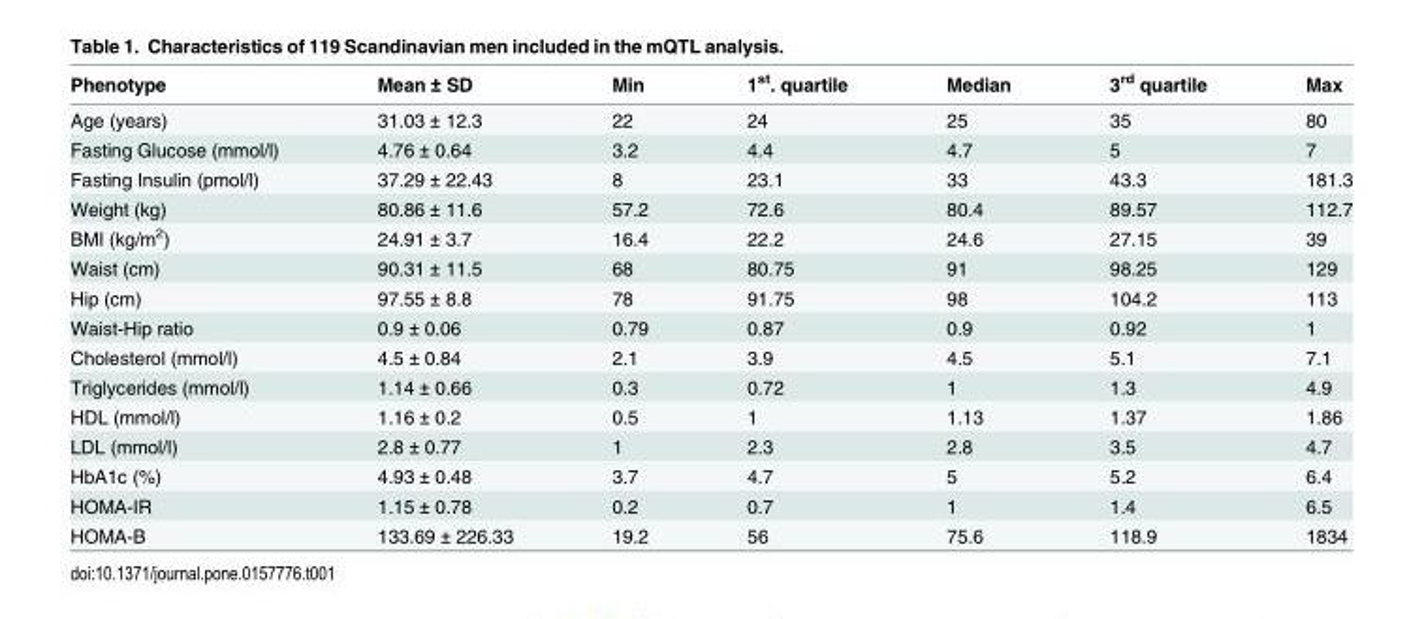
<table><thead><tr><td>Phenotype</td><td>Mean ± SD</td><td>Min</td><td>1<sup>st</sup>. quartile</td><td>Median</td><td>3<sup>rd</sup> quartile</td><td>Max</td></tr></thead><tbody><tr><td>Age (years)</td><td>31.03 ± 12.3</td><td>22</td><td>24</td><td>25</td><td>35</td><td>80</td></tr><tr><td>Fasting Glucose (mmol/l)</td><td>4.76 ± 0.64</td><td>3.2</td><td>4.4</td><td>4.7</td><td>5</td><td>7</td></tr><tr><td>Fasting Insulin (pmol/l)</td><td>37.29 ± 22.43</td><td>8</td><td>23.1</td><td>33</td><td>43.3</td><td>181.3</td></tr><tr><td>Weight (kg)</td><td>80.86 ± 11.6</td><td>57.2</td><td>72.6</td><td>80.4</td><td>89.57</td><td>112.7</td></tr><tr><td>BMI (kg/m<sup>2</sup>)</td><td>24.91 ± 3.7</td><td>16.4</td><td>22.2</td><td>24.6</td><td>27.15</td><td>39</td></tr><tr><td>Waist (cm)</td><td>90.31 ± 11.5</td><td>68</td><td>80.75</td><td>91</td><td>98.25</td><td>129</td></tr><tr><td>Hip (cm)</td><td>97.55 ± 8.8</td><td>78</td><td>91.75</td><td>98</td><td>104.2</td><td>113</td></tr><tr><td>Waist-Hip ratio</td><td>0.9 ± 0.06</td><td>0.79</td><td>0.87</td><td>0.9</td><td>0.92</td><td>1</td></tr><tr><td>Cholesterol (mmol/l)</td><td>4.5 ± 0.84</td><td>2.1</td><td>3.9</td><td>4.5</td><td>5.1</td><td>7.1</td></tr><tr><td>Triglycerides (mmol/l)</td><td>1.14 ± 0.66</td><td>0.3</td><td>0.72</td><td>1</td><td>1.3</td><td>4.9</td></tr><tr><td>HDL (mmol/l)</td><td>1.16 ± 0.2</td><td>0.5</td><td>1</td><td>1.13</td><td>1.37</td><td>1.86</td></tr><tr><td>LDL (mmol/l)</td><td>2.8 ± 0.77</td><td>1</td><td>2.3</td><td>2.8</td><td>3.5</td><td>4.7</td></tr><tr><td>HbA1c (%)</td><td>4.93 ± 0.48</td><td>3.7</td><td>4.7</td><td>5</td><td>5.2</td><td>6.4</td></tr><tr><td>HOMA-IR</td><td>1.15 ± 0.78</td><td>0.2</td><td>0.7</td><td>1</td><td>1.4</td><td>6.5</td></tr><tr><td>HOMA-B</td><td>133.69 ± 226.33</td><td>19.2</td><td>56</td><td>75.6</td><td>118.9</td><td>1834</td></tr></tbody></table>